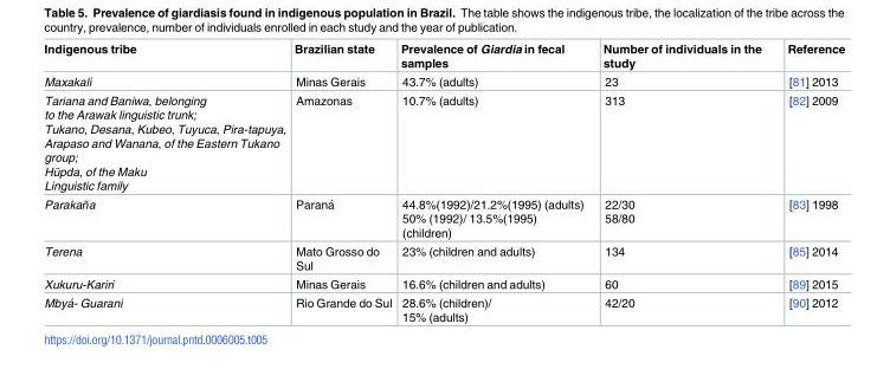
<table><thead><tr><td>Indigenous tribe</td><td>Brazilian state</td><td>Prevalence of Giardia in fecal samples</td><td>Number of individuals in the study</td><td>Reference</td></tr></thead><tbody><tr><td>Maxakali</td><td>Minas Gerais</td><td>43.7% (adults)</td><td>23</td><td>[81] 2013</td></tr><tr><td>Tariana and Baniwa, belonging to the Arawak linguistic trunk; Tukano, Desana, Kubeo, Tuyuca, Pira-tapuya, Arapaso and Wanana, of the Eastern Tukano group; Hu¨pda, of the Maku Linguistic family</td><td>Amazonas</td><td>10.7% (adults)</td><td>313</td><td>[82] 2009</td></tr><tr><td>Parakaña</td><td>Parana´</td><td>44.8%(1992)/21.2%(1995) (adults) 50% (1992)/ 13.5%(1995) (children)</td><td>22/30 58/80</td><td>[83] 1998</td></tr><tr><td>Terena</td><td>Mato Grosso do Sul</td><td>23% (children and adults)</td><td>134</td><td>[85] 2014</td></tr><tr><td>Xukuru-Kariri</td><td>Minas Gerais</td><td>16.6% (children and adults)</td><td>60</td><td>[89] 2015</td></tr><tr><td>Mbya´- Guarani</td><td>Rio Grande do Sul</td><td>28.6% (children)/ 15% (adults)</td><td>42/20</td><td>[90] 2012</td></tr></tbody></table>